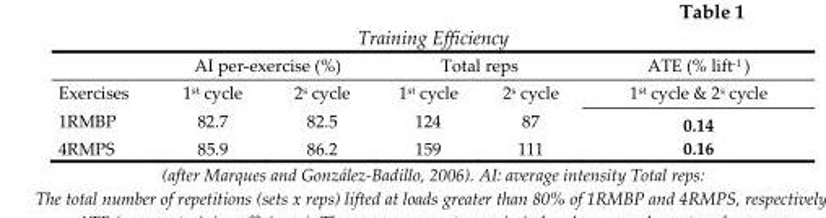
<table><thead><tr><td rowspan="2">Exercises</td><td colspan="2">AI per-exercise (%)</td><td colspan="2">Total reps</td><td rowspan="2">ATE (% lift<sup>-1</sup> ) 1<sup>st</sup> cycle &amp; 2<sup>s</sup> cycle</td></tr><tr><td>1<sup>st</sup> cycle</td><td>2<sup>s</sup> cycle</td><td>1<sup>st</sup> cycle</td><td>2<sup>s</sup> cycle</td></tr></thead><tbody><tr><td>1RMBP</td><td>82.7</td><td>82.5</td><td>124</td><td>87</td><td>0.14</td></tr><tr><td>4RMPS</td><td>85.9</td><td>86.2</td><td>159</td><td>111</td><td>0.16</td></tr></tbody></table>